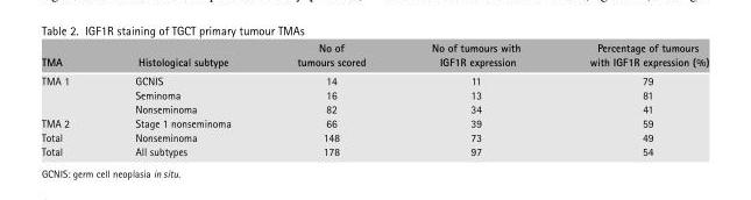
<table><thead><tr><td>TMA</td><td>Histological subtype</td><td>No of tumours scored</td><td>No of tumours with IGF1R expression</td><td>Percentage of tumours with IGF1R expression (%)</td></tr></thead><tbody><tr><td rowspan="3">TMA 1</td><td>GCNIS</td><td>14</td><td>11</td><td>79</td></tr><tr><td>Seminoma</td><td>16</td><td>13</td><td>81</td></tr><tr><td>Nonseminoma</td><td>82</td><td>34</td><td>41</td></tr><tr><td>TMA 2</td><td>Stage 1 nonseminoma</td><td>66</td><td>39</td><td>59</td></tr><tr><td>Total</td><td>Nonseminoma</td><td>148</td><td>73</td><td>49</td></tr><tr><td>Total</td><td>All subtypes</td><td>178</td><td>97</td><td>54</td></tr></tbody></table>